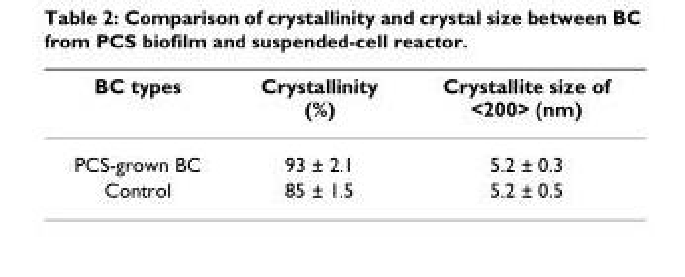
<table><thead><tr><td>BC types</td><td>Crystallinity (%)</td><td>Crystallite size of &lt;200&gt; (nm)</td></tr></thead><tbody><tr><td>PCS-grown BC</td><td>93 ± 2.1</td><td>5.2 ± 0.3</td></tr><tr><td>Control</td><td>85 ± 1.5</td><td>5.2 ± 0.5</td></tr></tbody></table>